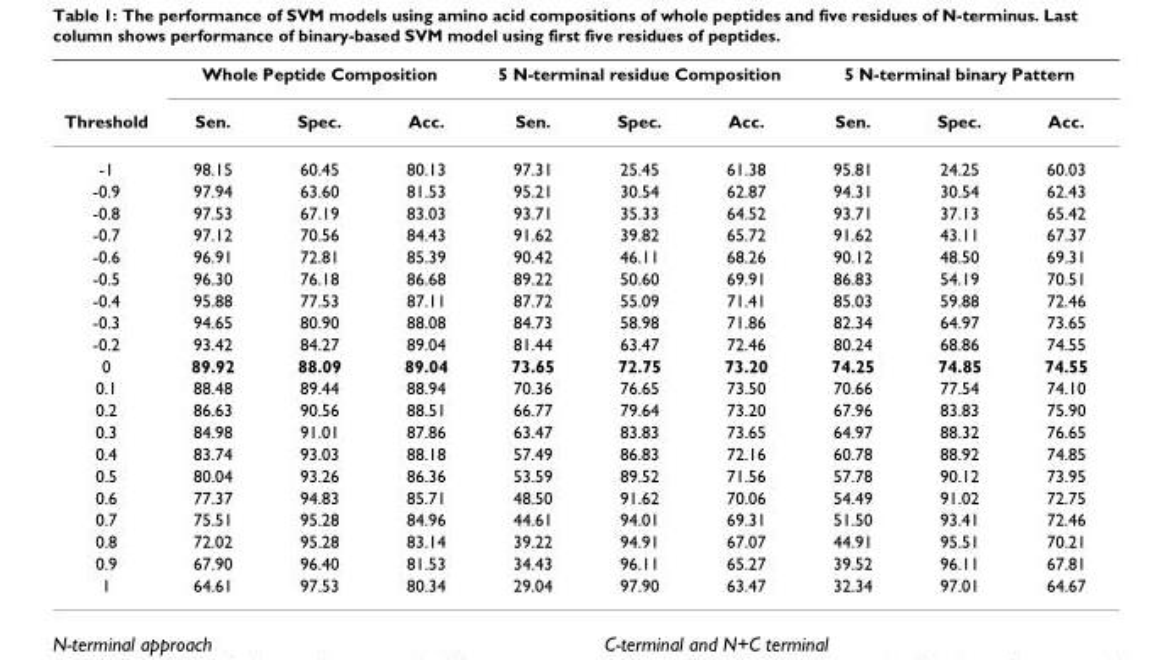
<table><thead><tr><td rowspan="2">Threshold</td><td colspan="3">Whole Peptide Composition</td><td colspan="3">5 N-terminal residue Composition</td><td colspan="3">5 N-terminal binary Pattern</td></tr><tr><td>Sen.</td><td>Spec.</td><td>Acc.</td><td>Sen.</td><td>Spec.</td><td>Acc.</td><td>Sen.</td><td>Spec.</td><td>Acc.</td></tr></thead><tbody><tr><td>-1</td><td>98.15</td><td>60.45</td><td>80.13</td><td>97.31</td><td>25.45</td><td>61.38</td><td>95.81</td><td>24.25</td><td>60.03</td></tr><tr><td>-0.9</td><td>97.94</td><td>63.60</td><td>81.53</td><td>95.21</td><td>30.54</td><td>62.87</td><td>94.31</td><td>30.54</td><td>62.43</td></tr><tr><td>-0.8</td><td>97.53</td><td>67.19</td><td>83.03</td><td>93.71</td><td>35.33</td><td>64.52</td><td>93.71</td><td>37.13</td><td>65.42</td></tr><tr><td>-0.7</td><td>97.12</td><td>70.56</td><td>84.43</td><td>91.62</td><td>39.82</td><td>65.72</td><td>91.62</td><td>43.11</td><td>67.37</td></tr><tr><td>-0.6</td><td>96.91</td><td>72.81</td><td>85.39</td><td>90.42</td><td>46.11</td><td>68.26</td><td>90.12</td><td>48.50</td><td>69.31</td></tr><tr><td>-0.5</td><td>96.30</td><td>76.18</td><td>86.68</td><td>89.22</td><td>50.60</td><td>69.91</td><td>86.83</td><td>54.19</td><td>70.51</td></tr><tr><td>-0.4</td><td>95.88</td><td>77.53</td><td>87.11</td><td>87.72</td><td>55.09</td><td>71.41</td><td>85.03</td><td>59.88</td><td>72.46</td></tr><tr><td>-0.3</td><td>94.65</td><td>80.90</td><td>88.08</td><td>84.73</td><td>58.98</td><td>71.86</td><td>82.34</td><td>64.97</td><td>73.65</td></tr><tr><td>-0.2</td><td>93.42</td><td>84.27</td><td>89.04</td><td>81.44</td><td>63.47</td><td>72.46</td><td>80.24</td><td>68.86</td><td>74.55</td></tr><tr><td>0</td><td>89.92</td><td>88.09</td><td>89.04</td><td>73.65</td><td>72.75</td><td>73.20</td><td>74.25</td><td>74.85</td><td>74.55</td></tr><tr><td>0.1</td><td>88.48</td><td>89.44</td><td>88.94</td><td>70.36</td><td>76.65</td><td>73.50</td><td>70.66</td><td>77.54</td><td>74.10</td></tr><tr><td>0.2</td><td>86.63</td><td>90.56</td><td>88.51</td><td>66.77</td><td>79.64</td><td>73.20</td><td>67.96</td><td>83.83</td><td>75.90</td></tr><tr><td>0.3</td><td>84.98</td><td>91.01</td><td>87.86</td><td>63.47</td><td>83.83</td><td>73.65</td><td>64.97</td><td>88.32</td><td>76.65</td></tr><tr><td>0.4</td><td>83.74</td><td>93.03</td><td>88.18</td><td>57.49</td><td>86.83</td><td>72.16</td><td>60.78</td><td>88.92</td><td>74.85</td></tr><tr><td>0.5</td><td>80.04</td><td>93.26</td><td>86.36</td><td>53.59</td><td>89.52</td><td>71.56</td><td>57.78</td><td>90.12</td><td>73.95</td></tr><tr><td>0.6</td><td>77.37</td><td>94.83</td><td>85.71</td><td>48.50</td><td>91.62</td><td>70.06</td><td>54.49</td><td>91.02</td><td>72.75</td></tr><tr><td>0.7</td><td>75.51</td><td>95.28</td><td>84.96</td><td>44.61</td><td>94.01</td><td>69.31</td><td>51.50</td><td>93.41</td><td>72.46</td></tr><tr><td>0.8</td><td>72.02</td><td>95.28</td><td>83.14</td><td>39.22</td><td>94.91</td><td>67.07</td><td>44.91</td><td>95.51</td><td>70.21</td></tr><tr><td>0.9</td><td>67.90</td><td>96.40</td><td>81.53</td><td>34.43</td><td>96.11</td><td>65.27</td><td>39.52</td><td>96.11</td><td>67.81</td></tr><tr><td>1</td><td>64.61</td><td>97.53</td><td>80.34</td><td>29.04</td><td>97.90</td><td>63.47</td><td>32.34</td><td>97.01</td><td>64.67</td></tr></tbody></table>